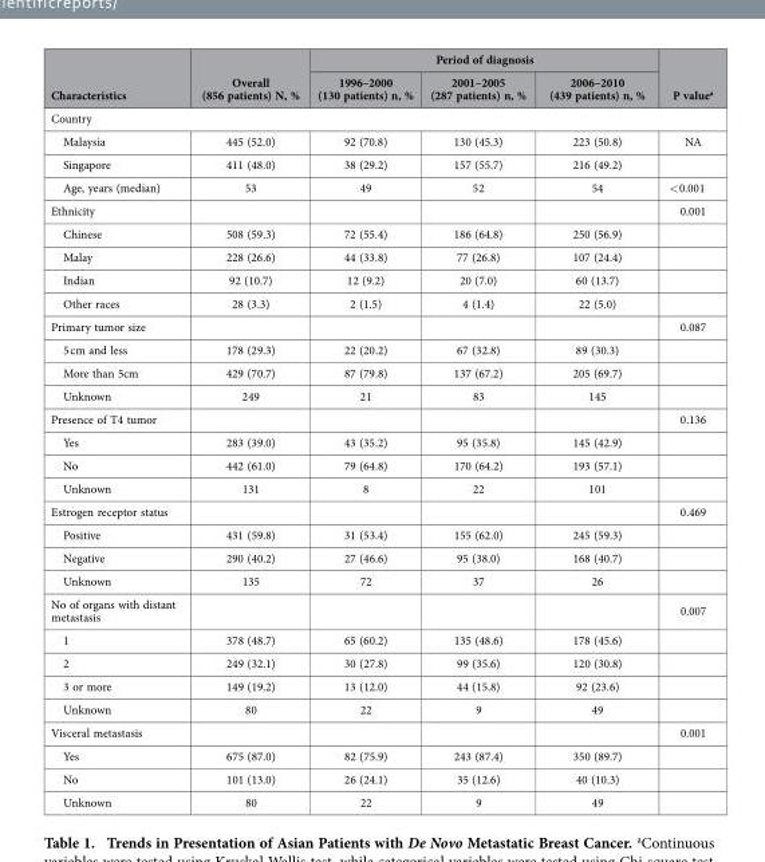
<table><thead><tr><td rowspan="2">Characteristics</td><td rowspan="2">Overall (856 patients) N, %</td><td colspan="3">Period of diagnosis</td><td rowspan="2">P value<sup>a</sup></td></tr><tr><td>1996–2000 (130 patients) n, %</td><td>2001–2005 (287 patients) n, %</td><td>2006–2010 (439 patients) n, %</td></tr></thead><tbody><tr><td colspan="6">Country</td></tr><tr><td>Malaysia</td><td>445 (52.0)</td><td>92 (70.8)</td><td>130 (45.3)</td><td>223 (50.8)</td><td>NA</td></tr><tr><td>Singapore</td><td>411 (48.0)</td><td>38 (29.2)</td><td>157 (55.7)</td><td>216 (49.2)</td><td></td></tr><tr><td>Age, years (median)</td><td>53</td><td>49</td><td>52</td><td>54</td><td>&lt; 0.001</td></tr><tr><td>Ethnicity</td><td></td><td></td><td></td><td></td><td>0.001</td></tr><tr><td>Chinese</td><td>508 (59.3)</td><td>72 (55.4)</td><td>186 (64.8)</td><td>250 (56.9)</td><td></td></tr><tr><td>Malay</td><td>228 (26.6)</td><td>44 (33.8)</td><td>77 (26.8)</td><td>107 (24.4)</td><td></td></tr><tr><td>Indian</td><td>92 (10.7)</td><td>12 (9.2)</td><td>20 (7.0)</td><td>60 (13.7)</td><td></td></tr><tr><td>Other races</td><td>28 (3.3)</td><td>2 (1.5)</td><td>4 (1.4)</td><td>22 (5.0)</td><td></td></tr><tr><td>Primary tumor size</td><td></td><td></td><td></td><td></td><td>0.087</td></tr><tr><td>5 cm and less</td><td>178 (29.3)</td><td>22 (20.2)</td><td>67 (32.8)</td><td>89 (30.3)</td><td></td></tr><tr><td>More than 5cm</td><td>429 (70.7)</td><td>87 (79.8)</td><td>137 (67.2)</td><td>205 (69.7)</td><td></td></tr><tr><td>Unknown</td><td>249</td><td>21</td><td>83</td><td>145</td><td></td></tr><tr><td>Presence of T4 tumor</td><td></td><td></td><td></td><td></td><td>0.136</td></tr><tr><td>Yes</td><td>283 (39.0)</td><td>43 (35.2)</td><td>95 (35.8)</td><td>145 (42.9)</td><td></td></tr><tr><td>No</td><td>442 (61.0)</td><td>79 (64.8)</td><td>170 (64.2)</td><td>193 (57.1)</td><td></td></tr><tr><td>Unknown</td><td>131</td><td>8</td><td>22</td><td>101</td><td></td></tr><tr><td>Estrogen receptor status</td><td></td><td></td><td></td><td></td><td>0.469</td></tr><tr><td>Positive</td><td>431 (59.8)</td><td>31 (53.4)</td><td>155 (62.0)</td><td>245 (59.3)</td><td></td></tr><tr><td>Negative</td><td>290 (40.2)</td><td>27 (46.6)</td><td>95 (38.0)</td><td>168 (40.7)</td><td></td></tr><tr><td>Unknown</td><td>135</td><td>72</td><td>37</td><td>26</td><td></td></tr><tr><td>No of organs with distant metastasis</td><td></td><td></td><td></td><td></td><td>0.007</td></tr><tr><td>1</td><td>378 (48.7)</td><td>65 (60.2)</td><td>135 (48.6)</td><td>178 (45.6)</td><td></td></tr><tr><td>2</td><td>249 (32.1)</td><td>30 (27.8)</td><td>99 (35.6)</td><td>120 (30.8)</td><td></td></tr><tr><td>3 or more</td><td>149 (19.2)</td><td>13 (12.0)</td><td>44 (15.8)</td><td>92 (23.6)</td><td></td></tr><tr><td>Unknown</td><td>80</td><td>22</td><td>9</td><td>49</td><td></td></tr><tr><td>Visceral metastasis</td><td></td><td></td><td></td><td></td><td>0.001</td></tr><tr><td>Yes</td><td>675 (87.0)</td><td>82 (75.9)</td><td>243 (87.4)</td><td>350 (89.7)</td><td></td></tr><tr><td>No</td><td>101 (13.0)</td><td>26 (24.1)</td><td>35 (12.6)</td><td>40 (10.3)</td><td></td></tr><tr><td>Unknown</td><td>80</td><td>22</td><td>9</td><td>49</td><td></td></tr></tbody></table>